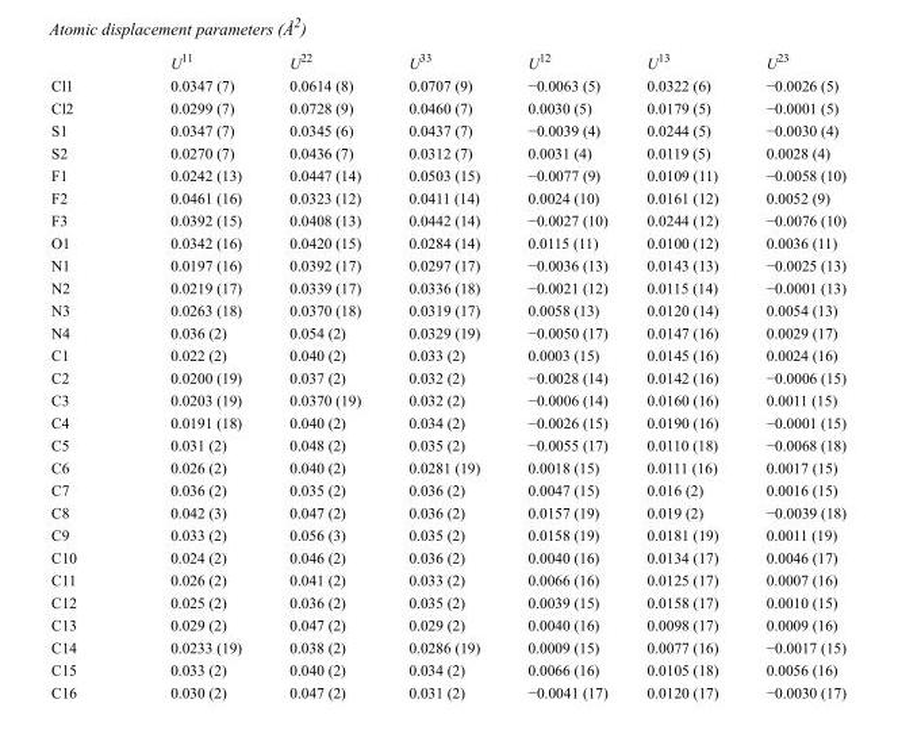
<table><thead><tr><td></td><td>U<sup>11</sup></td><td>U<sup>22</sup></td><td>U<sup>33</sup></td><td>U<sup>12</sup></td><td>U<sup>13</sup></td><td>U<sup>23</sup></td></tr></thead><tbody><tr><td>Cl1</td><td>0.0347 (7)</td><td>0.0614 (8)</td><td>0.0707 (9)</td><td>−0.0063 (5)</td><td>0.0322 (6)</td><td>−0.0026 (5)</td></tr><tr><td>Cl2</td><td>0.0299 (7)</td><td>0.0728 (9)</td><td>0.0460 (7)</td><td>0.0030 (5)</td><td>0.0179 (5)</td><td>−0.0001 (5)</td></tr><tr><td>S1</td><td>0.0347 (7)</td><td>0.0345 (6)</td><td>0.0437 (7)</td><td>−0.0039 (4)</td><td>0.0244 (5)</td><td>−0.0030 (4)</td></tr><tr><td>S2</td><td>0.0270 (7)</td><td>0.0436 (7)</td><td>0.0312 (7)</td><td>0.0031 (4)</td><td>0.0119 (5)</td><td>0.0028 (4)</td></tr><tr><td>F1</td><td>0.0242 (13)</td><td>0.0447 (14)</td><td>0.0503 (15)</td><td>−0.0077 (9)</td><td>0.0109 (11)</td><td>−0.0058 (10)</td></tr><tr><td>F2</td><td>0.0461 (16)</td><td>0.0323 (12)</td><td>0.0411 (14)</td><td>0.0024 (10)</td><td>0.0161 (12)</td><td>0.0052 (9)</td></tr><tr><td>F3</td><td>0.0392 (15)</td><td>0.0408 (13)</td><td>0.0442 (14)</td><td>−0.0027 (10)</td><td>0.0244 (12)</td><td>−0.0076 (10)</td></tr><tr><td>O1</td><td>0.0342 (16)</td><td>0.0420 (15)</td><td>0.0284 (14)</td><td>0.0115 (11)</td><td>0.0100 (12)</td><td>0.0036 (11)</td></tr><tr><td>N1</td><td>0.0197 (16)</td><td>0.0392 (17)</td><td>0.0297 (17)</td><td>−0.0036 (13)</td><td>0.0143 (13)</td><td>−0.0025 (13)</td></tr><tr><td>N2</td><td>0.0219 (17)</td><td>0.0339 (17)</td><td>0.0336 (18)</td><td>−0.0021 (12)</td><td>0.0115 (14)</td><td>−0.0001 (13)</td></tr><tr><td>N3</td><td>0.0263 (18)</td><td>0.0370 (18)</td><td>0.0319 (17)</td><td>0.0058 (13)</td><td>0.0120 (14)</td><td>0.0054 (13)</td></tr><tr><td>N4</td><td>0.036 (2)</td><td>0.054 (2)</td><td>0.0329 (19)</td><td>−0.0050 (17)</td><td>0.0147 (16)</td><td>0.0029 (17)</td></tr><tr><td>C1</td><td>0.022 (2)</td><td>0.040 (2)</td><td>0.033 (2)</td><td>0.0003 (15)</td><td>0.0145 (16)</td><td>0.0024 (16)</td></tr><tr><td>C2</td><td>0.0200 (19)</td><td>0.037 (2)</td><td>0.032 (2)</td><td>−0.0028 (14)</td><td>0.0142 (16)</td><td>−0.0006 (15)</td></tr><tr><td>C3</td><td>0.0203 (19)</td><td>0.0370 (19)</td><td>0.032 (2)</td><td>−0.0006 (14)</td><td>0.0160 (16)</td><td>0.0011 (15)</td></tr><tr><td>C4</td><td>0.0191 (18)</td><td>0.040 (2)</td><td>0.034 (2)</td><td>−0.0026 (15)</td><td>0.0190 (16)</td><td>−0.0001 (15)</td></tr><tr><td>C5</td><td>0.031 (2)</td><td>0.048 (2)</td><td>0.035 (2)</td><td>−0.0055 (17)</td><td>0.0110 (18)</td><td>−0.0068 (18)</td></tr><tr><td>C6</td><td>0.026 (2)</td><td>0.040 (2)</td><td>0.0281 (19)</td><td>0.0018 (15)</td><td>0.0111 (16)</td><td>0.0017 (15)</td></tr><tr><td>C7</td><td>0.036 (2)</td><td>0.035 (2)</td><td>0.036 (2)</td><td>0.0047 (15)</td><td>0.016 (2)</td><td>0.0016 (15)</td></tr><tr><td>C8</td><td>0.042 (3)</td><td>0.047 (2)</td><td>0.036 (2)</td><td>0.0157 (19)</td><td>0.019 (2)</td><td>−0.0039 (18)</td></tr><tr><td>C9</td><td>0.033 (2)</td><td>0.056 (3)</td><td>0.035 (2)</td><td>0.0158 (19)</td><td>0.0181 (19)</td><td>0.0011 (19)</td></tr><tr><td>C10</td><td>0.024 (2)</td><td>0.046 (2)</td><td>0.036 (2)</td><td>0.0040 (16)</td><td>0.0134 (17)</td><td>0.0046 (17)</td></tr><tr><td>C11</td><td>0.026 (2)</td><td>0.041 (2)</td><td>0.033 (2)</td><td>0.0066 (16)</td><td>0.0125 (17)</td><td>0.0007 (16)</td></tr><tr><td>C12</td><td>0.025 (2)</td><td>0.036 (2)</td><td>0.035 (2)</td><td>0.0039 (15)</td><td>0.0158 (17)</td><td>0.0010 (15)</td></tr><tr><td>C13</td><td>0.029 (2)</td><td>0.047 (2)</td><td>0.029 (2)</td><td>0.0040 (16)</td><td>0.0098 (17)</td><td>0.0009 (16)</td></tr><tr><td>C14</td><td>0.0233 (19)</td><td>0.038 (2)</td><td>0.0286 (19)</td><td>0.0009 (15)</td><td>0.0077 (16)</td><td>−0.0017 (15)</td></tr><tr><td>C15</td><td>0.033 (2)</td><td>0.040 (2)</td><td>0.034 (2)</td><td>0.0066 (16)</td><td>0.0105 (18)</td><td>0.0056 (16)</td></tr><tr><td>C16</td><td>0.030 (2)</td><td>0.047 (2)</td><td>0.031 (2)</td><td>−0.0041 (17)</td><td>0.0120 (17)</td><td>−0.0030 (17)</td></tr></tbody></table>